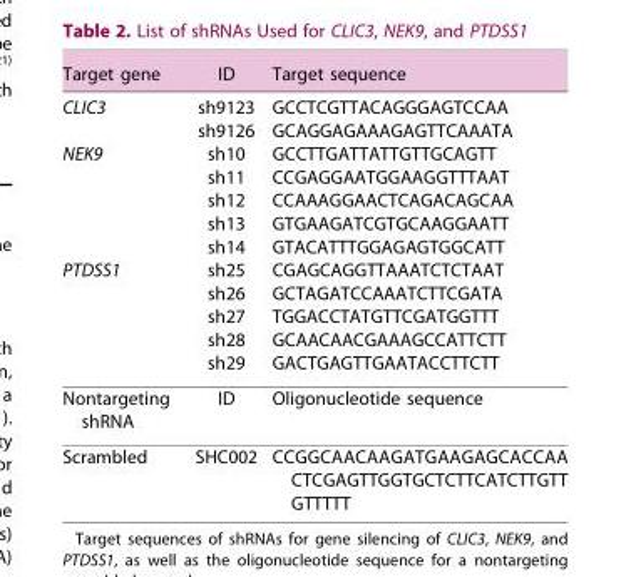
<table><thead><tr><td>Target gene</td><td>ID</td><td>Target sequence</td></tr></thead><tbody><tr><td rowspan="2">CLIC3</td><td>sh9123</td><td>GCCTCGTTACAGGGAGTCCAA</td></tr><tr><td>sh9126</td><td>GCAGGAGAAAGAGTTCAAATA</td></tr><tr><td rowspan="5">NEK9</td><td>sh10</td><td>GCCTTGATTATTGTTGCAGTT</td></tr><tr><td>sh11</td><td>CCGAGGAATGGAAGGTTTAAT</td></tr><tr><td>sh12</td><td>CCAAAGGAACTCAGACAGCAA</td></tr><tr><td>sh13</td><td>GTGAAGATCGTGCAAGGAATT</td></tr><tr><td>sh14</td><td>GTACATTTGGAGAGTGGCATT</td></tr><tr><td rowspan="5">PTDSS1</td><td>sh25</td><td>CGAGCAGGTTAAATCTCTAAT</td></tr><tr><td>sh26</td><td>GCTAGATCCAAATCTTCGATA</td></tr><tr><td>sh27</td><td>TGGACCTATGTTCGATGGTTT</td></tr><tr><td>sh28</td><td>GCAACAACGAAAGCCATTCTT</td></tr><tr><td>sh29</td><td>GACTGAGTTGAATACCTTCTT</td></tr><tr><td>Nontargeting shRNA</td><td>ID</td><td>Oligonucleotide sequence</td></tr><tr><td>Scrambled</td><td>SHC002</td><td>CCGGCAACAAGATGAAGAGCACCAA CTCGAGTTGGTGCTCTTCATCTTGTT GTTTTT</td></tr></tbody></table>